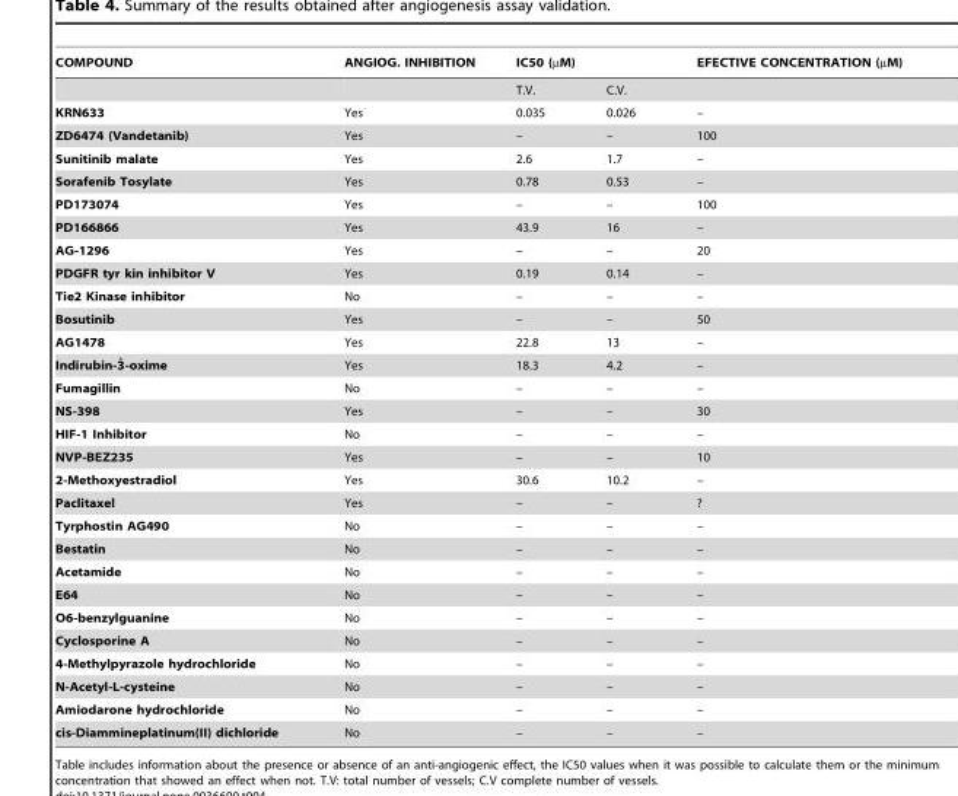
<table><thead><tr><td rowspan="2">COMPOUND</td><td rowspan="2">ANGIOG. INHIBITION</td><td colspan="2">IC50 (µM)</td><td rowspan="2">EFECTIVE CONCENTRATION (µM)</td></tr><tr><td>T.V.</td><td>C.V.</td></tr></thead><tbody><tr><td>KRN633</td><td>Yes</td><td>0.035</td><td>0.026</td><td>–</td></tr><tr><td>ZD6474 (Vandetanib)</td><td>Yes</td><td>–</td><td>–</td><td>100</td></tr><tr><td>Sunitinib malate</td><td>Yes</td><td>2.6</td><td>1.7</td><td>–</td></tr><tr><td>Sorafenib Tosylate</td><td>Yes</td><td>0.78</td><td>0.53</td><td>–</td></tr><tr><td>PD173074</td><td>Yes</td><td>–</td><td>–</td><td>100</td></tr><tr><td>PD166866</td><td>Yes</td><td>43.9</td><td>16</td><td>–</td></tr><tr><td>AG-1296</td><td>Yes</td><td>–</td><td>–</td><td>20</td></tr><tr><td>PDGFR tyr kin inhibitor V</td><td>Yes</td><td>0.19</td><td>0.14</td><td>–</td></tr><tr><td>Tie2 Kinase inhibitor</td><td>No</td><td>–</td><td>–</td><td>–</td></tr><tr><td>Bosutinib</td><td>Yes</td><td>–</td><td>–</td><td>50</td></tr><tr><td>AG1478</td><td>Yes</td><td>22.8</td><td>13</td><td>–</td></tr><tr><td>Indirubin-3` -oxime</td><td>Yes</td><td>18.3</td><td>4.2</td><td>–</td></tr><tr><td>Fumagillin</td><td>No</td><td>–</td><td>–</td><td>–</td></tr><tr><td>NS-398</td><td>Yes</td><td>–</td><td>–</td><td>30</td></tr><tr><td>HIF-1 Inhibitor</td><td>No</td><td>–</td><td>–</td><td>–</td></tr><tr><td>NVP-BEZ235</td><td>Yes</td><td>–</td><td>–</td><td>10</td></tr><tr><td>2-Methoxyestradiol</td><td>Yes</td><td>30.6</td><td>10.2</td><td>–</td></tr><tr><td>Paclitaxel</td><td>Yes</td><td>–</td><td>–</td><td>?</td></tr><tr><td>Tyrphostin AG490</td><td>No</td><td>–</td><td>–</td><td>–</td></tr><tr><td>Bestatin</td><td>No</td><td>–</td><td>–</td><td>–</td></tr><tr><td>Acetamide</td><td>No</td><td>–</td><td>–</td><td>–</td></tr><tr><td>E64</td><td>No</td><td>–</td><td>–</td><td>–</td></tr><tr><td>O6-benzylguanine</td><td>No</td><td>–</td><td>–</td><td>–</td></tr><tr><td>Cyclosporine A</td><td>No</td><td>–</td><td>–</td><td>–</td></tr><tr><td>4-Methylpyrazole hydrochloride</td><td>No</td><td>–</td><td>–</td><td>–</td></tr><tr><td>N-Acetyl-L-cysteine</td><td>No</td><td>–</td><td>–</td><td>–</td></tr><tr><td>Amiodarone hydrochloride</td><td>No</td><td>–</td><td>–</td><td>–</td></tr><tr><td>cis-Diammineplatinum(II) dichloride</td><td>No</td><td>–</td><td>–</td><td>–</td></tr></tbody></table>